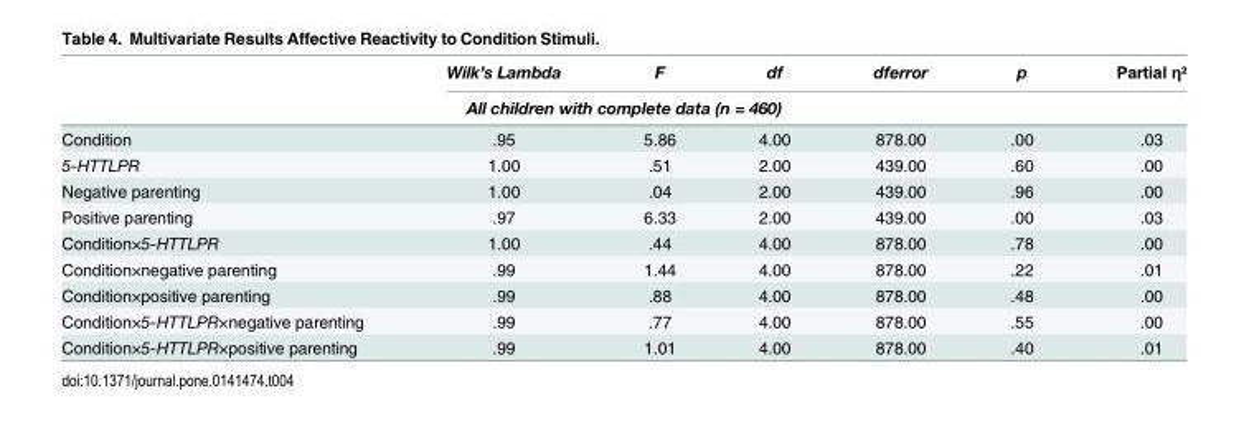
<table><thead><tr><td></td><td>Wilk’s Lambda</td><td>F</td><td>df</td><td>dferror</td><td>p</td><td>Partial η²</td></tr><tr><td colspan="7">All children with complete data (n = 460)</td></tr></thead><tbody><tr><td>Condition</td><td>.95</td><td>5.86</td><td>4.00</td><td>878.00</td><td>.00</td><td>.03</td></tr><tr><td>5-HTTLPR</td><td>1.00</td><td>.51</td><td>2.00</td><td>439.00</td><td>.60</td><td>.00</td></tr><tr><td>Negative parenting</td><td>1.00</td><td>.04</td><td>2.00</td><td>439.00</td><td>.96</td><td>.00</td></tr><tr><td>Positive parenting</td><td>.97</td><td>6.33</td><td>2.00</td><td>439.00</td><td>.00</td><td>.03</td></tr><tr><td>Condition×5-HTTLPR</td><td>1.00</td><td>.44</td><td>4.00</td><td>878.00</td><td>.78</td><td>.00</td></tr><tr><td>Condition×negative parenting</td><td>.99</td><td>1.44</td><td>4.00</td><td>878.00</td><td>.22</td><td>.01</td></tr><tr><td>Condition×positive parenting</td><td>.99</td><td>.88</td><td>4.00</td><td>878.00</td><td>.48</td><td>.00</td></tr><tr><td>Condition×5-HTTLPR×negative parenting</td><td>.99</td><td>.77</td><td>4.00</td><td>878.00</td><td>.55</td><td>.00</td></tr><tr><td>Condition×5-HTTLPR×positive parenting</td><td>.99</td><td>1.01</td><td>4.00</td><td>878.00</td><td>.40</td><td>.01</td></tr></tbody></table>